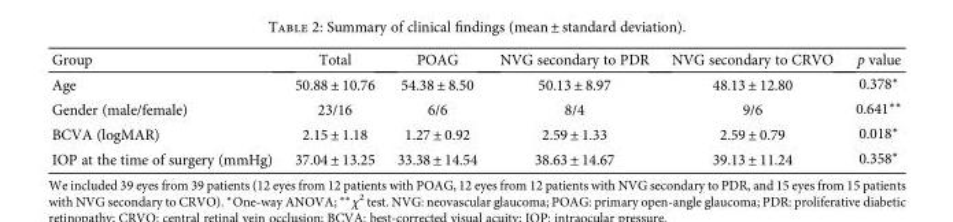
<table><thead><tr><td>Group</td><td>Total</td><td>POAG</td><td>NVG secondary to PDR</td><td>NVG secondary to CRVO</td><td>p value</td></tr></thead><tbody><tr><td>Age</td><td>50.88 ± 10.76</td><td>54.38 ± 8.50</td><td>50.13 ± 8.97</td><td>48.13 ± 12.80</td><td>0.378∗</td></tr><tr><td>Gender (male/female)</td><td>23/16</td><td>6/6</td><td>8/4</td><td>9/6</td><td>0.641∗∗</td></tr><tr><td>BCVA (logMAR)</td><td>2.15 ± 1.18</td><td>1.27 ± 0.92</td><td>2.59 ± 1.33</td><td>2.59 ± 0.79</td><td>0.018∗</td></tr><tr><td>IOP at the time of surgery (mmHg)</td><td>37.04 ± 13.25</td><td>33.38 ± 14.54</td><td>38.63 ± 14.67</td><td>39.13 ± 11.24</td><td>0.358∗</td></tr></tbody></table>